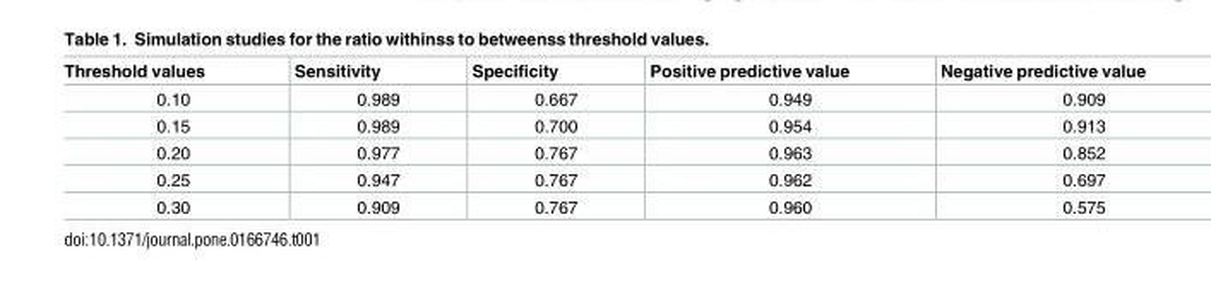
<table><thead><tr><td>Threshold values</td><td>Sensitivity</td><td>Specificity</td><td>Positive predictive value</td><td>Negative predictive value</td></tr></thead><tbody><tr><td>0.10</td><td>0.989</td><td>0.667</td><td>0.949</td><td>0.909</td></tr><tr><td>0.15</td><td>0.989</td><td>0.700</td><td>0.954</td><td>0.913</td></tr><tr><td>0.20</td><td>0.977</td><td>0.767</td><td>0.963</td><td>0.852</td></tr><tr><td>0.25</td><td>0.947</td><td>0.767</td><td>0.962</td><td>0.697</td></tr><tr><td>0.30</td><td>0.909</td><td>0.767</td><td>0.960</td><td>0.575</td></tr></tbody></table>